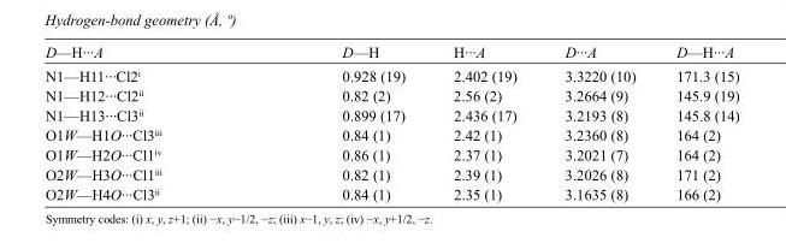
<table><tbody><tr><td>D—H···A</td><td>D—H</td><td>H···A</td><td>D···A</td><td>D—H···A</td></tr><tr><td>N1—H11···Cl2<sup>i</sup></td><td>0.928 (19)</td><td>2.402 (19)</td><td>3.3220 (10)</td><td>171.3 (15)</td></tr><tr><td>N1—H12···Cl2<sup>ii</sup></td><td>0.82 (2)</td><td>2.56 (2)</td><td>3.2664 (9)</td><td>145.9 (19)</td></tr><tr><td>N1—H13···Cl3<sup>ii</sup></td><td>0.899 (17)</td><td>2.436 (17)</td><td>3.2193 (8)</td><td>145.8 (14)</td></tr><tr><td>O1W—H1O···Cl3<sup>iii</sup></td><td>0.84 (1)</td><td>2.42 (1)</td><td>3.2360 (8)</td><td>164 (2)</td></tr><tr><td>O1W—H2O···Cl1<sup>iv</sup></td><td>0.86 (1)</td><td>2.37 (1)</td><td>3.2021 (7)</td><td>164 (2)</td></tr><tr><td>O2W—H3O···Cl1<sup>iii</sup></td><td>0.82 (1)</td><td>2.39 (1)</td><td>3.2026 (8)</td><td>171 (2)</td></tr><tr><td>O2W—H4O···Cl3<sup>ii</sup></td><td>0.84 (1)</td><td>2.35 (1)</td><td>3.1635 (8)</td><td>166 (2)</td></tr></tbody></table>